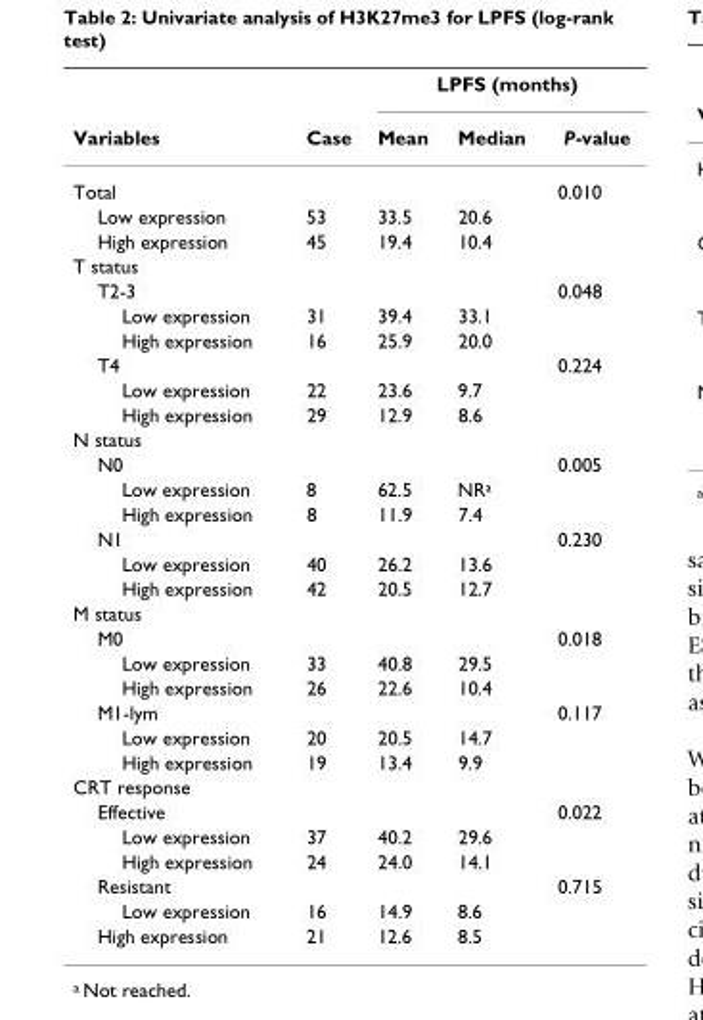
<table><thead><tr><td rowspan="2">Variables</td><td rowspan="2">Case</td><td colspan="3">LPFS (months)</td></tr><tr><td>Mean</td><td>Median</td><td>P-value</td></tr></thead><tbody><tr><td>Total</td><td></td><td></td><td></td><td>0.010</td></tr><tr><td>Low expression</td><td>53</td><td>33.5</td><td>20.6</td><td></td></tr><tr><td>High expression</td><td>45</td><td>19.4</td><td>10.4</td><td></td></tr><tr><td colspan="5">T status</td></tr><tr><td>T2-3</td><td></td><td></td><td></td><td>0.048</td></tr><tr><td>Low expression</td><td>31</td><td>39.4</td><td>33.1</td><td></td></tr><tr><td>High expression</td><td>16</td><td>25.9</td><td>20.0</td><td></td></tr><tr><td>T4</td><td></td><td></td><td></td><td>0.224</td></tr><tr><td>Low expression</td><td>22</td><td>23.6</td><td>9.7</td><td></td></tr><tr><td>High expression</td><td>29</td><td>12.9</td><td>8.6</td><td></td></tr><tr><td colspan="5">N status</td></tr><tr><td>N0</td><td></td><td></td><td></td><td>0.005</td></tr><tr><td>Low expression</td><td>8</td><td>62.5</td><td>NR<sup>a</sup></td><td></td></tr><tr><td>High expression</td><td>8</td><td>11.9</td><td>7.4</td><td></td></tr><tr><td>N1</td><td></td><td></td><td></td><td>0.230</td></tr><tr><td>Low expression</td><td>40</td><td>26.2</td><td>13.6</td><td></td></tr><tr><td>High expression</td><td>42</td><td>20.5</td><td>12.7</td><td></td></tr><tr><td colspan="5">M status</td></tr><tr><td>M0</td><td></td><td></td><td></td><td>0.018</td></tr><tr><td>Low expression</td><td>33</td><td>40.8</td><td>29.5</td><td></td></tr><tr><td>High expression</td><td>26</td><td>22.6</td><td>10.4</td><td></td></tr><tr><td>M1-lym</td><td></td><td></td><td></td><td>0.117</td></tr><tr><td>Low expression</td><td>20</td><td>20.5</td><td>14.7</td><td></td></tr><tr><td>High expression</td><td>19</td><td>13.4</td><td>9.9</td><td></td></tr><tr><td colspan="5">CRT response</td></tr><tr><td>Effective</td><td></td><td></td><td></td><td>0.022</td></tr><tr><td>Low expression</td><td>37</td><td>40.2</td><td>29.6</td><td></td></tr><tr><td>High expression</td><td>24</td><td>24.0</td><td>14.1</td><td></td></tr><tr><td>Resistant</td><td></td><td></td><td></td><td>0.715</td></tr><tr><td>Low expression</td><td>16</td><td>14.9</td><td>8.6</td><td></td></tr><tr><td>High expression</td><td>21</td><td>12.6</td><td>8.5</td><td></td></tr></tbody></table>